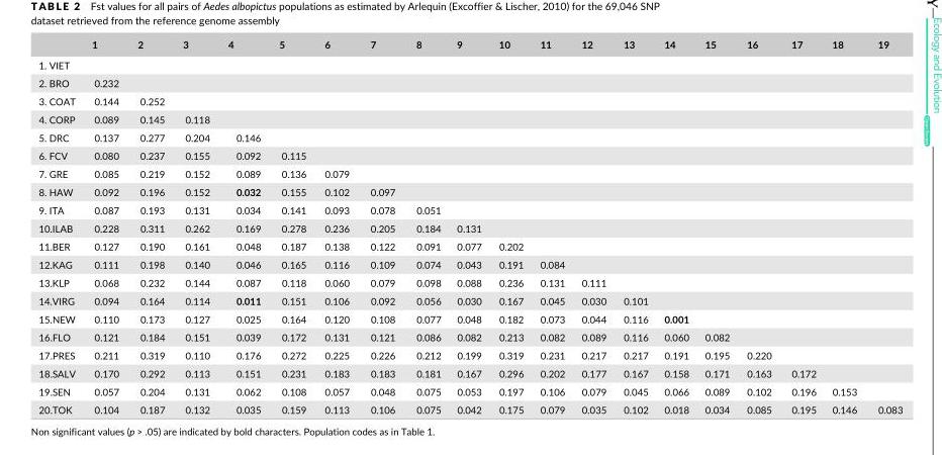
<table><thead><tr><td></td><td>1</td><td>2</td><td>3</td><td>4</td><td>5</td><td>6</td><td>7</td><td>8</td><td>9</td><td>10</td><td>11</td><td>12</td><td>13</td><td>14</td><td>15</td><td>16</td><td>17</td><td>18</td><td>19</td></tr></thead><tbody><tr><td colspan="20">1. VIET</td></tr><tr><td>2. BRO</td><td>0.232</td><td></td><td></td><td></td><td></td><td></td><td></td><td></td><td></td><td></td><td></td><td></td><td></td><td></td><td></td><td></td><td></td><td></td><td></td></tr><tr><td>3. COAT</td><td>0.144</td><td>0.252</td><td></td><td></td><td></td><td></td><td></td><td></td><td></td><td></td><td></td><td></td><td></td><td></td><td></td><td></td><td></td><td></td><td></td></tr><tr><td>4. CORP</td><td>0.089</td><td>0.145</td><td>0.118</td><td></td><td></td><td></td><td></td><td></td><td></td><td></td><td></td><td></td><td></td><td></td><td></td><td></td><td></td><td></td><td></td></tr><tr><td>5. DRC</td><td>0.137</td><td>0.277</td><td>0.204</td><td>0.146</td><td></td><td></td><td></td><td></td><td></td><td></td><td></td><td></td><td></td><td></td><td></td><td></td><td></td><td></td><td></td></tr><tr><td>6. FCV</td><td>0.080</td><td>0.237</td><td>0.155</td><td>0.092</td><td>0.115</td><td></td><td></td><td></td><td></td><td></td><td></td><td></td><td></td><td></td><td></td><td></td><td></td><td></td><td></td></tr><tr><td>7. GRE</td><td>0.085</td><td>0.219</td><td>0.152</td><td>0.089</td><td>0.136</td><td>0.079</td><td></td><td></td><td></td><td></td><td></td><td></td><td></td><td></td><td></td><td></td><td></td><td></td><td></td></tr><tr><td>8. HAW</td><td>0.092</td><td>0.196</td><td>0.152</td><td>0.032</td><td>0.155</td><td>0.102</td><td>0.097</td><td></td><td></td><td></td><td></td><td></td><td></td><td></td><td></td><td></td><td></td><td></td><td></td></tr><tr><td>9. ITA</td><td>0.087</td><td>0.193</td><td>0.131</td><td>0.034</td><td>0.141</td><td>0.093</td><td>0.078</td><td>0.051</td><td></td><td></td><td></td><td></td><td></td><td></td><td></td><td></td><td></td><td></td><td></td></tr><tr><td>10.ILAB</td><td>0.228</td><td>0.311</td><td>0.262</td><td>0.169</td><td>0.278</td><td>0.236</td><td>0.205</td><td>0.184</td><td>0.131</td><td></td><td></td><td></td><td></td><td></td><td></td><td></td><td></td><td></td><td></td></tr><tr><td>11.BER</td><td>0.127</td><td>0.190</td><td>0.161</td><td>0.048</td><td>0.187</td><td>0.138</td><td>0.122</td><td>0.091</td><td>0.077</td><td>0.202</td><td></td><td></td><td></td><td></td><td></td><td></td><td></td><td></td><td></td></tr><tr><td>12.KAG</td><td>0.111</td><td>0.198</td><td>0.140</td><td>0.046</td><td>0.165</td><td>0.116</td><td>0.109</td><td>0.074</td><td>0.043</td><td>0.191</td><td>0.084</td><td></td><td></td><td></td><td></td><td></td><td></td><td></td><td></td></tr><tr><td>13.KLP</td><td>0.068</td><td>0.232</td><td>0.144</td><td>0.087</td><td>0.118</td><td>0.060</td><td>0.079</td><td>0.098</td><td>0.088</td><td>0.236</td><td>0.131</td><td>0.111</td><td></td><td></td><td></td><td></td><td></td><td></td><td></td></tr><tr><td>14.VIRG</td><td>0.094</td><td>0.164</td><td>0.114</td><td>0.011</td><td>0.151</td><td>0.106</td><td>0.092</td><td>0.056</td><td>0.030</td><td>0.167</td><td>0.045</td><td>0.030</td><td>0.101</td><td></td><td></td><td></td><td></td><td></td><td></td></tr><tr><td>15.NEW</td><td>0.110</td><td>0.173</td><td>0.127</td><td>0.025</td><td>0.164</td><td>0.120</td><td>0.108</td><td>0.077</td><td>0.048</td><td>0.182</td><td>0.073</td><td>0.044</td><td>0.116</td><td>0.001</td><td></td><td></td><td></td><td></td><td></td></tr><tr><td>16.FLO</td><td>0.121</td><td>0.184</td><td>0.151</td><td>0.039</td><td>0.172</td><td>0.131</td><td>0.121</td><td>0.086</td><td>0.082</td><td>0.213</td><td>0.082</td><td>0.089</td><td>0.116</td><td>0.060</td><td>0.082</td><td></td><td></td><td></td><td></td></tr><tr><td>17.PRES</td><td>0.211</td><td>0.319</td><td>0.110</td><td>0.176</td><td>0.272</td><td>0.225</td><td>0.226</td><td>0.212</td><td>0.199</td><td>0.319</td><td>0.231</td><td>0.217</td><td>0.217</td><td>0.191</td><td>0.195</td><td>0.220</td><td></td><td></td><td></td></tr><tr><td>18.SALV</td><td>0.170</td><td>0.292</td><td>0.113</td><td>0.151</td><td>0.231</td><td>0.183</td><td>0.183</td><td>0.181</td><td>0.167</td><td>0.296</td><td>0.202</td><td>0.177</td><td>0.167</td><td>0.158</td><td>0.171</td><td>0.163</td><td>0.172</td><td></td><td></td></tr><tr><td>19.SEN</td><td>0.057</td><td>0.204</td><td>0.131</td><td>0.062</td><td>0.108</td><td>0.057</td><td>0.048</td><td>0.075</td><td>0.053</td><td>0.197</td><td>0.106</td><td>0.079</td><td>0.045</td><td>0.066</td><td>0.089</td><td>0.102</td><td>0.196</td><td>0.153</td><td></td></tr><tr><td>20.TOK</td><td>0.104</td><td>0.187</td><td>0.132</td><td>0.035</td><td>0.159</td><td>0.113</td><td>0.106</td><td>0.075</td><td>0.042</td><td>0.175</td><td>0.079</td><td>0.035</td><td>0.102</td><td>0.018</td><td>0.034</td><td>0.085</td><td>0.195</td><td>0.146</td><td>0.083</td></tr></tbody></table>